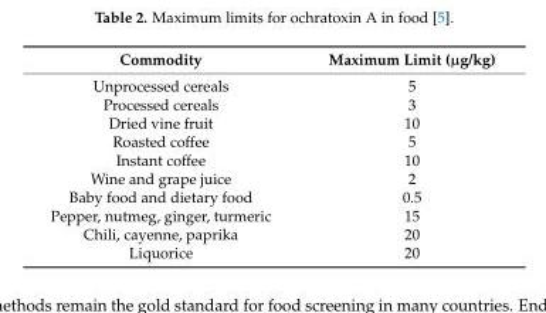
<table><thead><tr><td>Commodity</td><td>Maximum Limit (µg/kg)</td></tr></thead><tbody><tr><td>Unprocessed cereals</td><td>5</td></tr><tr><td>Processed cereals</td><td>3</td></tr><tr><td>Dried vine fruit</td><td>10</td></tr><tr><td>Roasted coffee</td><td>5</td></tr><tr><td>Instant coffee</td><td>10</td></tr><tr><td>Wine and grape juice</td><td>2</td></tr><tr><td>Baby food and dietary food</td><td>0.5</td></tr><tr><td>Pepper, nutmeg, ginger, turmeric</td><td>15</td></tr><tr><td>Chili, cayenne, paprika</td><td>20</td></tr><tr><td>Liquorice</td><td>20</td></tr></tbody></table>